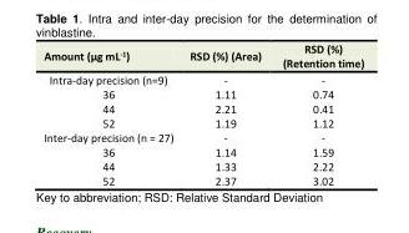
<table><tbody><tr><td>Amount (µg mL<sup>-1</sup>)</td><td>RSD (%) (Area)</td><td>RSD (%) (Retention time)</td></tr><tr><td>Intra-day precision (n=9)</td><td>-</td><td>-</td></tr><tr><td>36</td><td>1.11</td><td>0.74</td></tr><tr><td>44</td><td>2.21</td><td>0.41</td></tr><tr><td>52</td><td>1.19</td><td>1.12</td></tr><tr><td>Inter-day precision (n = 27)</td><td>-</td><td>-</td></tr><tr><td>36</td><td>1.14</td><td>1.59</td></tr><tr><td>44</td><td>1.33</td><td>2.22</td></tr><tr><td>52</td><td>2.37</td><td>3.02</td></tr></tbody></table>